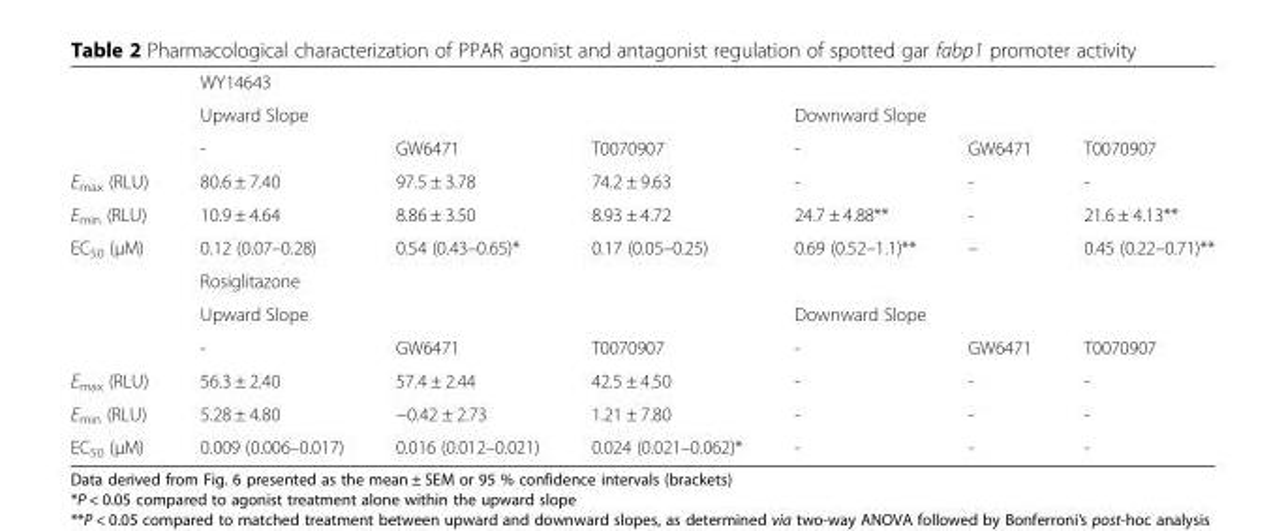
<table><thead><tr><td rowspan="3"></td><td colspan="6">WY14643</td></tr><tr><td colspan="3">Upward Slope</td><td colspan="3">Downward Slope</td></tr><tr><td>-</td><td>GW6471</td><td>T0070907</td><td>-</td><td>GW6471</td><td>T0070907</td></tr></thead><tbody><tr><td>E<sub>max</sub> (RLU)</td><td>80.6 ± 7.40</td><td>97.5 ± 3.78</td><td>74.2 ± 9.63</td><td>-</td><td>-</td><td>-</td></tr><tr><td>E<sub>min</sub> (RLU)</td><td>10.9 ± 4.64</td><td>8.86 ± 3.50</td><td>8.93 ± 4.72</td><td>24.7 ± 4.88**</td><td>-</td><td>21.6 ± 4.13**</td></tr><tr><td rowspan="4">EC<sub>50</sub> (μM)</td><td>0.12 (0.07–0.28)</td><td>0.54 (0.43–0.65)*</td><td>0.17 (0.05–0.25)</td><td>0.69 (0.52–1.1)**</td><td>–</td><td>0.45 (0.22–0.71)**</td></tr><tr><td colspan="6">Rosiglitazone</td></tr><tr><td colspan="3">Upward Slope</td><td colspan="3">Downward Slope</td></tr><tr><td>-</td><td>GW6471</td><td>T0070907</td><td>-</td><td>GW6471</td><td>T0070907</td></tr><tr><td>E<sub>max</sub> (RLU)</td><td>56.3 ± 2.40</td><td>57.4 ± 2.44</td><td>42.5 ± 4.50</td><td>-</td><td>-</td><td>-</td></tr><tr><td>E<sub>min</sub> (RLU)</td><td>5.28 ± 4.80</td><td>−0.42 ± 2.73</td><td>1.21 ± 7.80</td><td>-</td><td>-</td><td>-</td></tr><tr><td>EC<sub>50</sub> (μM)</td><td>0.009 (0.006–0.017)</td><td>0.016 (0.012–0.021)</td><td>0.024 (0.021–0.062)*</td><td>-</td><td>-</td><td>-</td></tr></tbody></table>